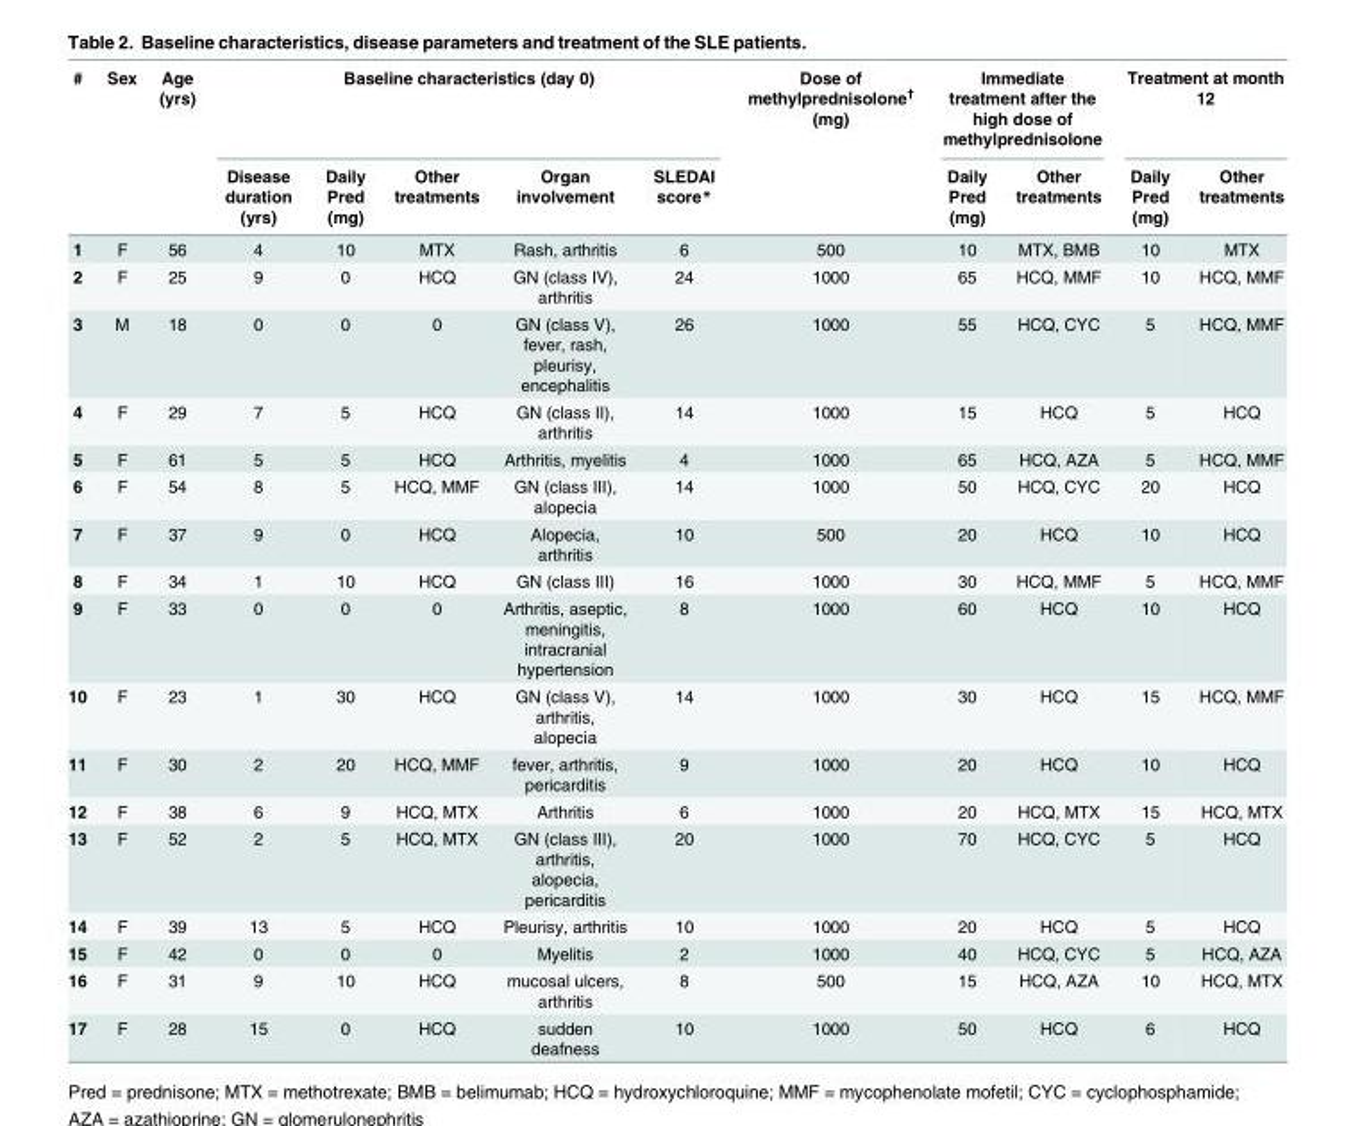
<table><thead><tr><td rowspan="2">#</td><td rowspan="2">Sex</td><td rowspan="2">Age (yrs)</td><td colspan="5">Baseline characteristics (day 0)</td><td rowspan="2">Dose of methylprednisolone<sup>†</sup> (mg)</td><td colspan="2">Immediate treatment after the high dose of methylprednisolone</td><td colspan="2">Treatment at month 12</td></tr><tr><td>Disease duration (yrs)</td><td>Daily Pred (mg)</td><td>Other treatments</td><td>Organ involvement</td><td>SLEDAI score*</td><td>Daily Pred (mg)</td><td>Other treatments</td><td>Daily Pred (mg)</td><td>Other treatments</td></tr></thead><tbody><tr><td>1</td><td>F</td><td>56</td><td>4</td><td>10</td><td>MTX</td><td>Rash, arthritis</td><td>6</td><td>500</td><td>10</td><td>MTX, BMB</td><td>10</td><td>MTX</td></tr><tr><td>2</td><td>F</td><td>25</td><td>9</td><td>0</td><td>HCQ</td><td>GN (class IV), arthritis</td><td>24</td><td>1000</td><td>65</td><td>HCQ, MMF</td><td>10</td><td>HCQ, MMF</td></tr><tr><td>3</td><td>M</td><td>18</td><td>0</td><td>0</td><td>0</td><td>GN (class V), fever, rash, pleurisy, encephalitis</td><td>26</td><td>1000</td><td>55</td><td>HCQ, CYC</td><td>5</td><td>HCQ, MMF</td></tr><tr><td>4</td><td>F</td><td>29</td><td>7</td><td>5</td><td>HCQ</td><td>GN (class II), arthritis</td><td>14</td><td>1000</td><td>15</td><td>HCQ</td><td>5</td><td>HCQ</td></tr><tr><td>5</td><td>F</td><td>61</td><td>5</td><td>5</td><td>HCQ</td><td>Arthritis, myelitis</td><td>4</td><td>1000</td><td>65</td><td>HCQ, AZA</td><td>5</td><td>HCQ, MMF</td></tr><tr><td>6</td><td>F</td><td>54</td><td>8</td><td>5</td><td>HCQ, MMF</td><td>GN (class III), alopecia</td><td>14</td><td>1000</td><td>50</td><td>HCQ, CYC</td><td>20</td><td>HCQ</td></tr><tr><td>7</td><td>F</td><td>37</td><td>9</td><td>0</td><td>HCQ</td><td>Alopecia, arthritis</td><td>10</td><td>500</td><td>20</td><td>HCQ</td><td>10</td><td>HCQ</td></tr><tr><td>8</td><td>F</td><td>34</td><td>1</td><td>10</td><td>HCQ</td><td>GN (class III)</td><td>16</td><td>1000</td><td>30</td><td>HCQ, MMF</td><td>5</td><td>HCQ, MMF</td></tr><tr><td>9</td><td>F</td><td>33</td><td>0</td><td>0</td><td>0</td><td>Arthritis, aseptic, meningitis, intracranial hypertension</td><td>8</td><td>1000</td><td>60</td><td>HCQ</td><td>10</td><td>HCQ</td></tr><tr><td>10</td><td>F</td><td>23</td><td>1</td><td>30</td><td>HCQ</td><td>GN (class V), arthritis, alopecia</td><td>14</td><td>1000</td><td>30</td><td>HCQ</td><td>15</td><td>HCQ, MMF</td></tr><tr><td>11</td><td>F</td><td>30</td><td>2</td><td>20</td><td>HCQ, MMF</td><td>fever, arthritis, pericarditis</td><td>9</td><td>1000</td><td>20</td><td>HCQ</td><td>10</td><td>HCQ</td></tr><tr><td>12</td><td>F</td><td>38</td><td>6</td><td>9</td><td>HCQ, MTX</td><td>Arthritis</td><td>6</td><td>1000</td><td>20</td><td>HCQ, MTX</td><td>15</td><td>HCQ, MTX</td></tr><tr><td>13</td><td>F</td><td>52</td><td>2</td><td>5</td><td>HCQ, MTX</td><td>GN (class III), arthritis, alopecia, pericarditis</td><td>20</td><td>1000</td><td>70</td><td>HCQ, CYC</td><td>5</td><td>HCQ</td></tr><tr><td>14</td><td>F</td><td>39</td><td>13</td><td>5</td><td>HCQ</td><td>Pleurisy, arthritis</td><td>10</td><td>1000</td><td>20</td><td>HCQ</td><td>5</td><td>HCQ</td></tr><tr><td>15</td><td>F</td><td>42</td><td>0</td><td>0</td><td>0</td><td>Myelitis</td><td>2</td><td>1000</td><td>40</td><td>HCQ, CYC</td><td>5</td><td>HCQ, AZA</td></tr><tr><td>16</td><td>F</td><td>31</td><td>9</td><td>10</td><td>HCQ</td><td>mucosal ulcers, arthritis</td><td>8</td><td>500</td><td>15</td><td>HCQ, AZA</td><td>10</td><td>HCQ, MTX</td></tr><tr><td>17</td><td>F</td><td>28</td><td>15</td><td>0</td><td>HCQ</td><td>sudden deafness</td><td>10</td><td>1000</td><td>50</td><td>HCQ</td><td>6</td><td>HCQ</td></tr></tbody></table>